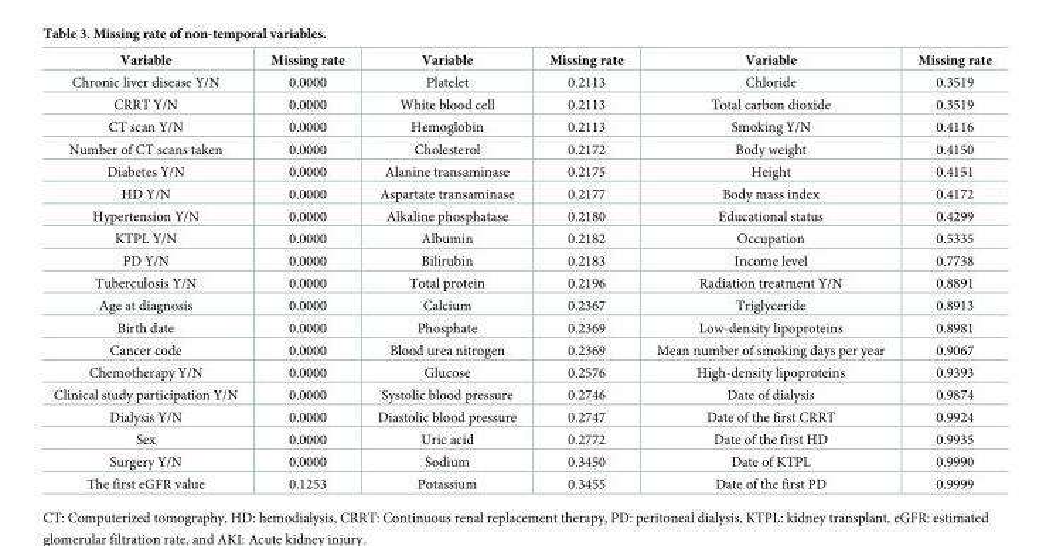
<table><thead><tr><td>Variable</td><td>Missing rate</td><td>Variable</td><td>Missing rate</td><td>Variable</td><td>Missing rate</td></tr></thead><tbody><tr><td>Chronic liver disease Y/N</td><td>0.0000</td><td>Platelet</td><td>0.2113</td><td>Chloride</td><td>0.3519</td></tr><tr><td>CRRT Y/N</td><td>0.0000</td><td>White blood cell</td><td>0.2113</td><td>Total carbon dioxide</td><td>0.3519</td></tr><tr><td>CT scan Y/N</td><td>0.0000</td><td>Hemoglobin</td><td>0.2113</td><td>Smoking Y/N</td><td>0.4116</td></tr><tr><td>Number of CT scans taken</td><td>0.0000</td><td>Cholesterol</td><td>0.2172</td><td>Body weight</td><td>0.4150</td></tr><tr><td>Diabetes Y/N</td><td>0.0000</td><td>Alanine transaminase</td><td>0.2175</td><td>Height</td><td>0.4151</td></tr><tr><td>HD Y/N</td><td>0.0000</td><td>Aspartate transaminase</td><td>0.2177</td><td>Body mass index</td><td>0.4172</td></tr><tr><td>Hypertension Y/N</td><td>0.0000</td><td>Alkaline phosphatase</td><td>0.2180</td><td>Educational status</td><td>0.4299</td></tr><tr><td>KTPL Y/N</td><td>0.0000</td><td>Albumin</td><td>0.2182</td><td>Occupation</td><td>0.5335</td></tr><tr><td>PD Y/N</td><td>0.0000</td><td>Bilirubin</td><td>0.2183</td><td>Income level</td><td>0.7738</td></tr><tr><td>Tuberculosis Y/N</td><td>0.0000</td><td>Total protein</td><td>0.2196</td><td>Radiation treatment Y/N</td><td>0.8891</td></tr><tr><td>Age at diagnosis</td><td>0.0000</td><td>Calcium</td><td>0.2367</td><td>Triglyceride</td><td>0.8913</td></tr><tr><td>Birth date</td><td>0.0000</td><td>Phosphate</td><td>0.2369</td><td>Low-density lipoproteins</td><td>0.8981</td></tr><tr><td>Cancer code</td><td>0.0000</td><td>Blood urea nitrogen</td><td>0.2369</td><td>Mean number of smoking days per year</td><td>0.9067</td></tr><tr><td>Chemotherapy Y/N</td><td>0.0000</td><td>Glucose</td><td>0.2576</td><td>High-density lipoproteins</td><td>0.9393</td></tr><tr><td>Clinical study participation Y/N</td><td>0.0000</td><td>Systolic blood pressure</td><td>0.2746</td><td>Date of dialysis</td><td>0.9874</td></tr><tr><td>Dialysis Y/N</td><td>0.0000</td><td>Diastolic blood pressure</td><td>0.2747</td><td>Date of the first CRRT</td><td>0.9924</td></tr><tr><td>Sex</td><td>0.0000</td><td>Uric acid</td><td>0.2772</td><td>Date of the first HD</td><td>0.9935</td></tr><tr><td>Surgery Y/N</td><td>0.0000</td><td>Sodium</td><td>0.3450</td><td>Date of KTPL</td><td>0.9990</td></tr><tr><td>The first eGFR value</td><td>0.1253</td><td>Potassium</td><td>0.3455</td><td>Date of the first PD</td><td>0.9999</td></tr></tbody></table>